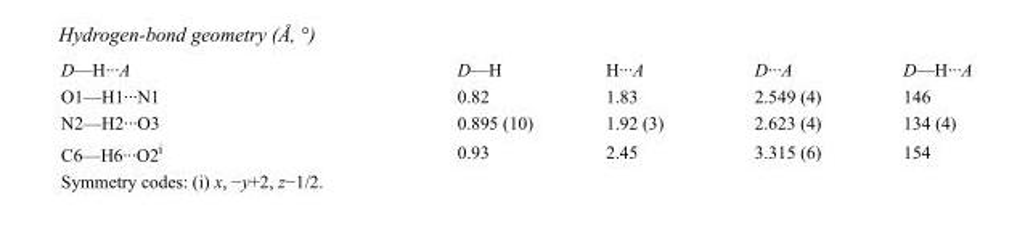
<table><tbody><tr><td>D—H···A</td><td>D—H</td><td>H···A</td><td>D···A</td><td>D—H···A</td></tr><tr><td>O1—H1···N1</td><td>0.82</td><td>1.83</td><td>2.549 (4)</td><td>146</td></tr><tr><td>N2—H2···O3</td><td>0.895 (10)</td><td>1.92 (3)</td><td>2.623 (4)</td><td>134 (4)</td></tr><tr><td>C6—H6···O2<sup>i</sup></td><td>0.93</td><td>2.45</td><td>3.315 (6)</td><td>154</td></tr></tbody></table>